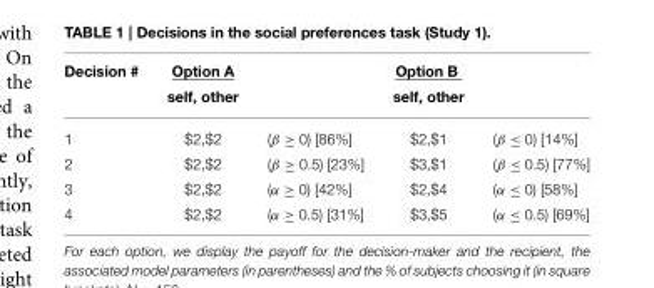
<table><thead><tr><td>Decision #</td><td>Option A self, other</td><td></td><td>Option B self, other</td><td></td></tr></thead><tbody><tr><td>1</td><td>$2,$2</td><td>(β ≥ 0) [86%]</td><td>$2,$1</td><td>(β ≤ 0) [14%]</td></tr><tr><td>2</td><td>$2,$2</td><td>(β ≥ 0.5) [23%]</td><td>$3,$1</td><td>(β ≤ 0.5) [77%]</td></tr><tr><td>3</td><td>$2,$2</td><td>(α ≥ 0) [42%]</td><td>$2,$4</td><td>(α ≤ 0) [58%]</td></tr><tr><td>4</td><td>$2,$2</td><td>(α ≥ 0.5) [31%]</td><td>$3,$5</td><td>(α ≤ 0.5) [69%]</td></tr></tbody></table>